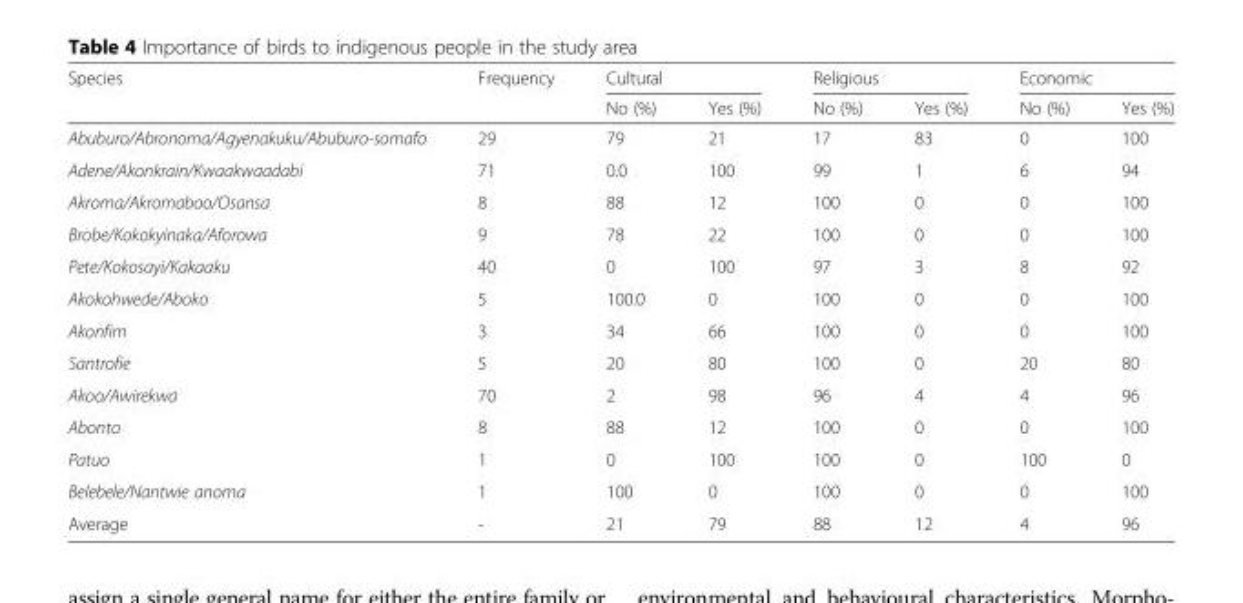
<table><thead><tr><td rowspan="2">Species</td><td rowspan="2">Frequency</td><td colspan="2">Cultural</td><td colspan="2">Religious</td><td colspan="2">Economic</td></tr><tr><td>No (%)</td><td>Yes (%)</td><td>No (%)</td><td>Yes (%)</td><td>No (%)</td><td>Yes (%)</td></tr></thead><tbody><tr><td>Abuburo/Abronoma/Agyenakuku/Abuburo-somafo</td><td>29</td><td>79</td><td>21</td><td>17</td><td>83</td><td>0</td><td>100</td></tr><tr><td>Adene/Akonkrain/Kwaakwaadabi</td><td>71</td><td>0.0</td><td>100</td><td>99</td><td>1</td><td>6</td><td>94</td></tr><tr><td>Akroma/Akromaboo/Osansa</td><td>8</td><td>88</td><td>12</td><td>100</td><td>0</td><td>0</td><td>100</td></tr><tr><td>Brobe/Kokokyinaka/Aforowa</td><td>9</td><td>78</td><td>22</td><td>100</td><td>0</td><td>0</td><td>100</td></tr><tr><td>Pete/Kokosayi/Kakaaku</td><td>40</td><td>0</td><td>100</td><td>97</td><td>3</td><td>8</td><td>92</td></tr><tr><td>Akokohwede/Aboko</td><td>5</td><td>100.0</td><td>0</td><td>100</td><td>0</td><td>0</td><td>100</td></tr><tr><td>Akonfim</td><td>3</td><td>34</td><td>66</td><td>100</td><td>0</td><td>0</td><td>100</td></tr><tr><td>Santrofie</td><td>5</td><td>20</td><td>80</td><td>100</td><td>0</td><td>20</td><td>80</td></tr><tr><td>Akoo/Awirekwa</td><td>70</td><td>2</td><td>98</td><td>96</td><td>4</td><td>4</td><td>96</td></tr><tr><td>Abonto</td><td>8</td><td>88</td><td>12</td><td>100</td><td>0</td><td>0</td><td>100</td></tr><tr><td>Patuo</td><td>1</td><td>0</td><td>100</td><td>100</td><td>0</td><td>100</td><td>0</td></tr><tr><td>Belebele/Nantwie anoma</td><td>1</td><td>100</td><td>0</td><td>100</td><td>0</td><td>0</td><td>100</td></tr><tr><td>Average</td><td>-</td><td>21</td><td>79</td><td>88</td><td>12</td><td>4</td><td>96</td></tr></tbody></table>